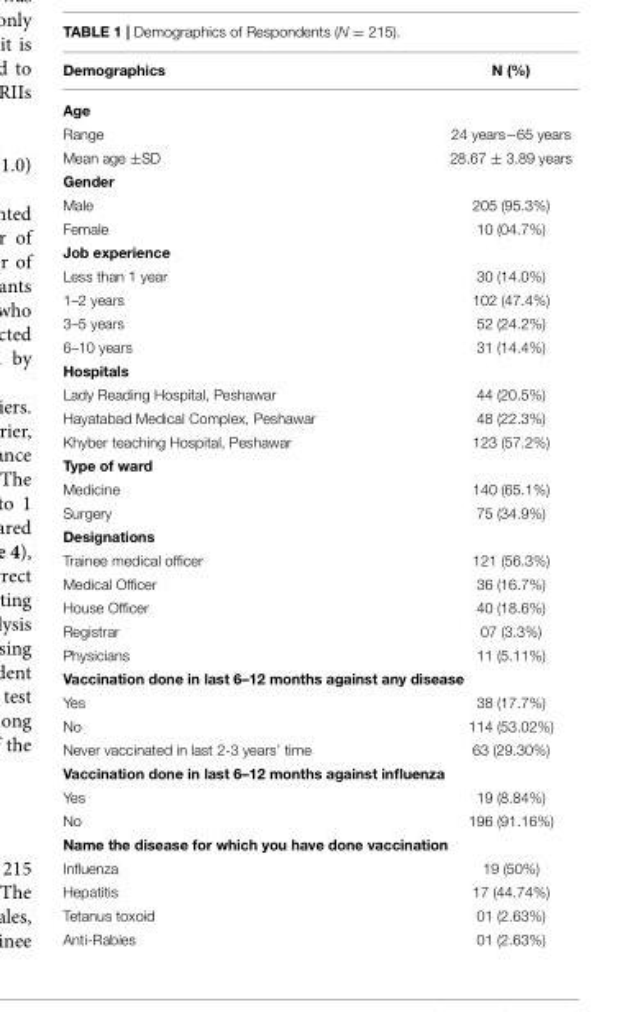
<table><thead><tr><td>Demographics</td><td>N (%)</td></tr></thead><tbody><tr><td colspan="2">Age</td></tr><tr><td>Range</td><td>24 years−65 years</td></tr><tr><td>Mean age ±SD</td><td>28.67 ± 3.89 years</td></tr><tr><td colspan="2">Gender</td></tr><tr><td>Male</td><td>205 (95.3%)</td></tr><tr><td>Female</td><td>10 (04.7%)</td></tr><tr><td colspan="2">Job experience</td></tr><tr><td>Less than 1 year</td><td>30 (14.0%)</td></tr><tr><td>1–2 years</td><td>102 (47.4%)</td></tr><tr><td>3–5 years</td><td>52 (24.2%)</td></tr><tr><td>6–10 years</td><td>31 (14.4%)</td></tr><tr><td colspan="2">Hospitals</td></tr><tr><td>Lady Reading Hospital, Peshawar</td><td>44 (20.5%)</td></tr><tr><td>Hayatabad Medical Complex, Peshawar</td><td>48 (22.3%)</td></tr><tr><td>Khyber teaching Hospital, Peshawar</td><td>123 (57.2%)</td></tr><tr><td colspan="2">Type of ward</td></tr><tr><td>Medicine</td><td>140 (65.1%)</td></tr><tr><td>Surgery</td><td>75 (34.9%)</td></tr><tr><td colspan="2">Designations</td></tr><tr><td>Trainee medical officer</td><td>121 (56.3%)</td></tr><tr><td>Medical Officer</td><td>36 (16.7%)</td></tr><tr><td>House Officer</td><td>40 (18.6%)</td></tr><tr><td>Registrar</td><td>07 (3.3%)</td></tr><tr><td>Physicians</td><td>11 (5.11%)</td></tr><tr><td colspan="2">Vaccination done in last 6–12 months against any disease</td></tr><tr><td>Yes</td><td>38 (17.7%)</td></tr><tr><td>No</td><td>114 (53.02%)</td></tr><tr><td>Never vaccinated in last 2-3 years’ time</td><td>63 (29.30%)</td></tr><tr><td colspan="2">Vaccination done in last 6–12 months against influenza</td></tr><tr><td>Yes</td><td>19 (8.84%)</td></tr><tr><td>No</td><td>196 (91.16%)</td></tr><tr><td colspan="2">Name the disease for which you have done vaccination</td></tr><tr><td>Influenza</td><td>19 (50%)</td></tr><tr><td>Hepatitis</td><td>17 (44.74%)</td></tr><tr><td>Tetanus toxoid</td><td>01 (2.63%)</td></tr><tr><td>Anti-Rabies</td><td>01 (2.63%)</td></tr></tbody></table>